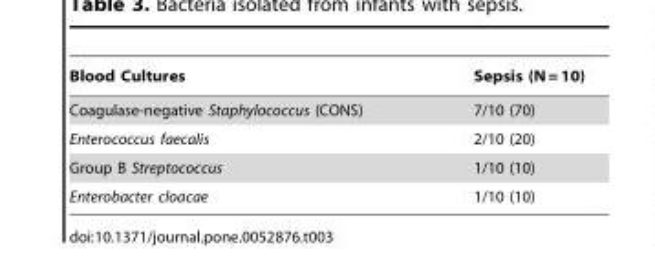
<table><thead><tr><td>Blood Cultures</td><td>Sepsis (N = 10)</td></tr></thead><tbody><tr><td>Coagulase-negative Staphylococcus (CONS)</td><td>7/10 (70)</td></tr><tr><td>Enterococcus faecalis</td><td>2/10 (20)</td></tr><tr><td>Group B Streptococcus</td><td>1/10 (10)</td></tr><tr><td>Enterobacter cloacae</td><td>1/10 (10)</td></tr></tbody></table>